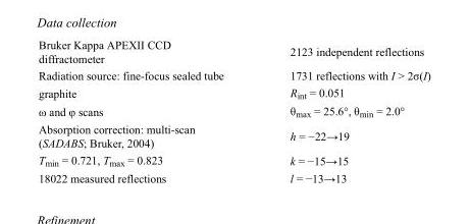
<table><tbody><tr><td>Bruker Kappa APEXII CCD diffractometer</td><td>2123 independent reflections</td></tr><tr><td>Radiation source: fine-focus sealed tube</td><td>1731 reflections with I &gt; 2σ(I)</td></tr><tr><td>graphite</td><td>R<sub>int</sub> = 0.051</td></tr><tr><td>ω and φ scans</td><td>θ<sub>max</sub> = 25.6°, θ<sub>min</sub> = 2.0°</td></tr><tr><td>Absorption correction: multi-scan (SADABS; Bruker, 2004)</td><td>h = −22→19</td></tr><tr><td>T<sub>min</sub> = 0.721, T<sub>max</sub> = 0.823</td><td>k = −15→15</td></tr><tr><td>18022 measured reflections</td><td>l = −13→13</td></tr></tbody></table>